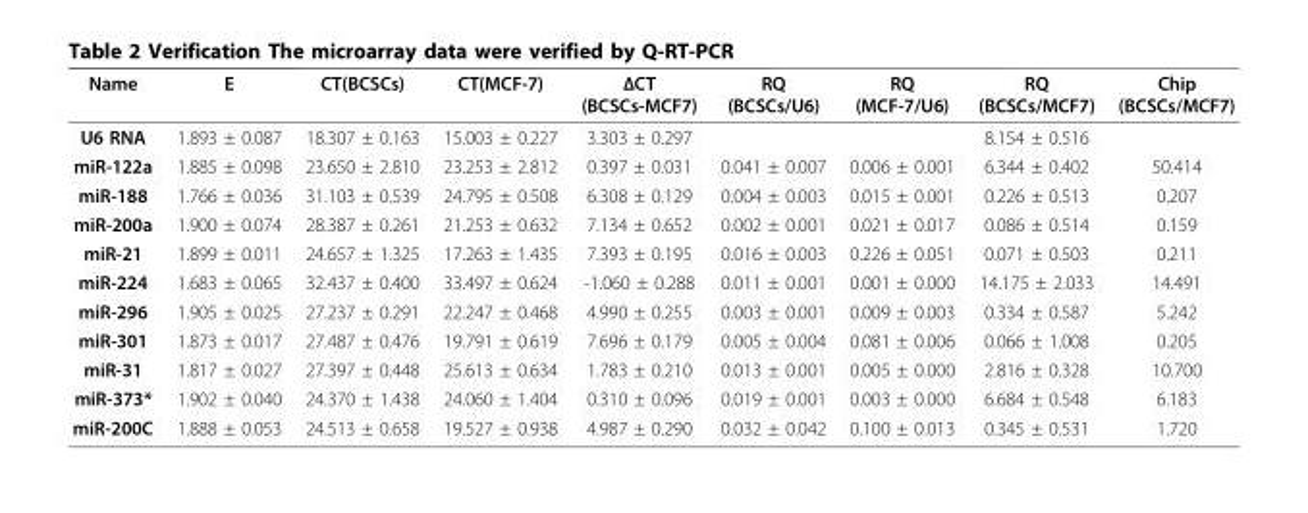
<table><thead><tr><td>Name</td><td>E</td><td>CT(BCSCs)</td><td>CT(MCF-7)</td><td>ΔCT (BCSCs-MCF7)</td><td>RQ (BCSCs/U6)</td><td>RQ (MCF-7/U6)</td><td>RQ (BCSCs/MCF7)</td><td>Chip (BCSCs/MCF7)</td></tr></thead><tbody><tr><td>U6 RNA</td><td>1.893 ± 0.087</td><td>18.307 ± 0.163</td><td>15.003 ± 0.227</td><td>3.303 ± 0.297</td><td></td><td></td><td>8.154 ± 0.516</td><td></td></tr><tr><td>miR-122a</td><td>1.885 ± 0.098</td><td>23.650 ± 2.810</td><td>23.253 ± 2.812</td><td>0.397 ± 0.031</td><td>0.041 ± 0.007</td><td>0.006 ± 0.001</td><td>6.344 ± 0.402</td><td>50.414</td></tr><tr><td>miR-188</td><td>1.766 ± 0.036</td><td>31.103 ± 0.539</td><td>24.795 ± 0.508</td><td>6.308 ± 0.129</td><td>0.004 ± 0.003</td><td>0.015 ± 0.001</td><td>0.226 ± 0.513</td><td>0.207</td></tr><tr><td>miR-200a</td><td>1.900 ± 0.074</td><td>28.387 ± 0.261</td><td>21.253 ± 0.632</td><td>7.134 ± 0.652</td><td>0.002 ± 0.001</td><td>0.021 ± 0.017</td><td>0.086 ± 0.514</td><td>0.159</td></tr><tr><td>miR-21</td><td>1.899 ± 0.011</td><td>24.657 ± 1.325</td><td>17.263 ± 1.435</td><td>7.393 ± 0.195</td><td>0.016 ± 0.003</td><td>0.226 ± 0.051</td><td>0.071 ± 0.503</td><td>0.211</td></tr><tr><td>miR-224</td><td>1.683 ± 0.065</td><td>32.437 ± 0.400</td><td>33.497 ± 0.624</td><td>-1.060 ± 0.288</td><td>0.011 ± 0.001</td><td>0.001 ± 0.000</td><td>14.175 ± 2.033</td><td>14.491</td></tr><tr><td>miR-296</td><td>1.905 ± 0.025</td><td>27.237 ± 0.291</td><td>22.247 ± 0.468</td><td>4.990 ± 0.255</td><td>0.003 ± 0.001</td><td>0.009 ± 0.003</td><td>0.334 ± 0.587</td><td>5.242</td></tr><tr><td>miR-301</td><td>1.873 ± 0.017</td><td>27.487 ± 0.476</td><td>19.791 ± 0.619</td><td>7.696 ± 0.179</td><td>0.005 ± 0.004</td><td>0.081 ± 0.006</td><td>0.066 ± 1.008</td><td>0.205</td></tr><tr><td>miR-31</td><td>1.817 ± 0.027</td><td>27.397 ± 0.448</td><td>25.613 ± 0.634</td><td>1.783 ± 0.210</td><td>0.013 ± 0.001</td><td>0.005 ± 0.000</td><td>2.816 ± 0.328</td><td>10.700</td></tr><tr><td>miR-373*</td><td>1.902 ± 0.040</td><td>24.370 ± 1.438</td><td>24.060 ± 1.404</td><td>0.310 ± 0.096</td><td>0.019 ± 0.001</td><td>0.003 ± 0.000</td><td>6.684 ± 0.548</td><td>6.183</td></tr><tr><td>miR-200C</td><td>1.888 ± 0.053</td><td>24.513 ± 0.658</td><td>19.527 ± 0.938</td><td>4.987 ± 0.290</td><td>0.032 ± 0.042</td><td>0.100 ± 0.013</td><td>0.345 ± 0.531</td><td>1.720</td></tr></tbody></table>